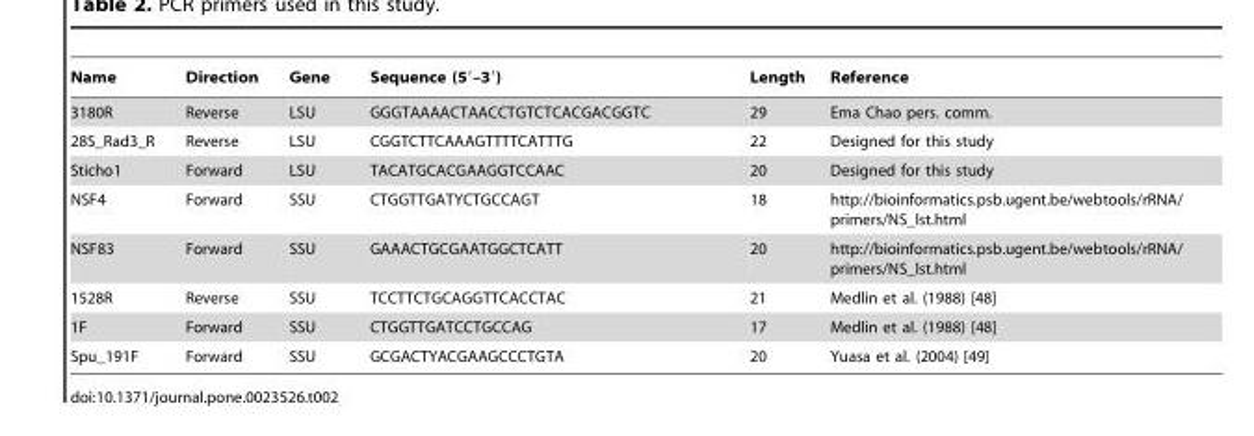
<table><thead><tr><td>Name</td><td>Direction</td><td>Gene</td><td>Sequence (5′–3′)</td><td>Length</td><td>Reference</td></tr></thead><tbody><tr><td>3180R</td><td>Reverse</td><td>LSU</td><td>GGGTAAAACTAACCTGTCTCACGACGGTC</td><td>29</td><td>Ema Chao pers. comm.</td></tr><tr><td>28S_Rad3_R</td><td>Reverse</td><td>LSU</td><td>CGGTCTTCAAAGTTTTCATTTG</td><td>22</td><td>Designed for this study</td></tr><tr><td>Sticho1</td><td>Forward</td><td>LSU</td><td>TACATGCACGAAGGTCCAAC</td><td>20</td><td>Designed for this study</td></tr><tr><td>NSF4</td><td>Forward</td><td>SSU</td><td>CTGGTTGATYCTGCCAGT</td><td>18</td><td>http://bioinformatics.psb.ugent.be/webtools/rRNA/ primers/NS_lst.html</td></tr><tr><td>NSF83</td><td>Forward</td><td>SSU</td><td>GAAACTGCGAATGGCTCATT</td><td>20</td><td>http://bioinformatics.psb.ugent.be/webtools/rRNA/ primers/NS_lst.html</td></tr><tr><td>1528R</td><td>Reverse</td><td>SSU</td><td>TCCTTCTGCAGGTTCACCTAC</td><td>21</td><td>Medlin et al. (1988) [48]</td></tr><tr><td>1F</td><td>Forward</td><td>SSU</td><td>CTGGTTGATCCTGCCAG</td><td>17</td><td>Medlin et al. (1988) [48]</td></tr><tr><td>Spu_191F</td><td>Forward</td><td>SSU</td><td>GCGACTYACGAAGCCCTGTA</td><td>20</td><td>Yuasa et al. (2004) [49]</td></tr></tbody></table>